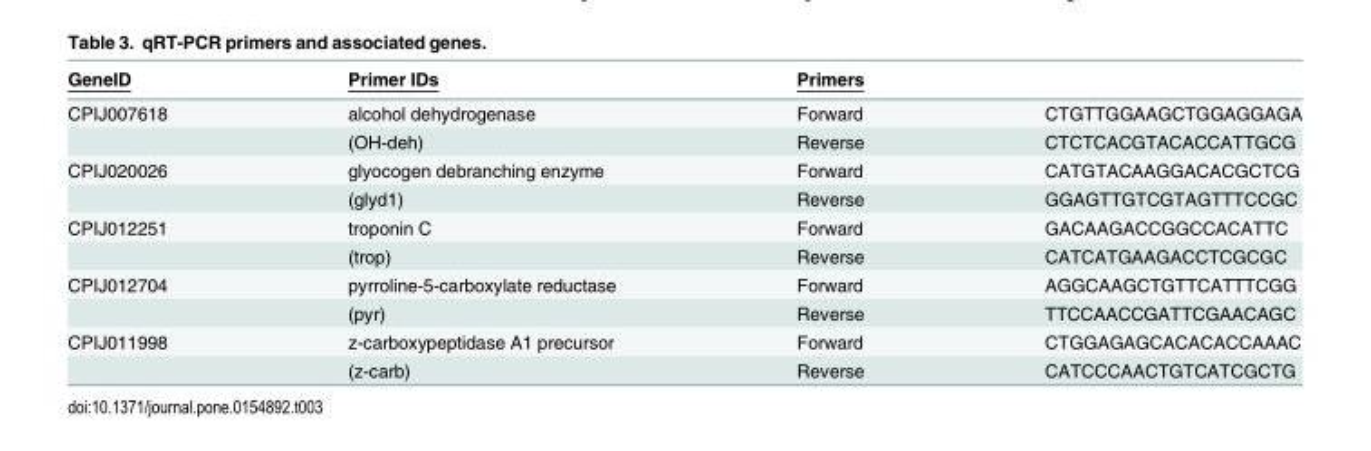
<table><thead><tr><td rowspan="2">GeneID CPIJ007618</td><td rowspan="2">Primer IDs alcohol dehydrogenase</td><td colspan="2">Primers</td></tr><tr><td>Forward</td><td>CTGTTGGAAGCTGGAGGAGA</td></tr></thead><tbody><tr><td></td><td>(OH-deh)</td><td>Reverse</td><td>CTCTCACGTACACCATTGCG</td></tr><tr><td rowspan="2">CPIJ020026</td><td>glyocogen debranching enzyme</td><td>Forward</td><td>CATGTACAAGGACACGCTCG</td></tr><tr><td>(glyd1)</td><td>Reverse</td><td>GGAGTTGTCGTAGTTTCCGC</td></tr><tr><td rowspan="2">CPIJ012251</td><td>troponin C</td><td>Forward</td><td>GACAAGACCGGCCACATTC</td></tr><tr><td>(trop)</td><td>Reverse</td><td>CATCATGAAGACCTCGCGC</td></tr><tr><td rowspan="2">CPIJ012704</td><td>pyrroline-5-carboxylate reductase</td><td>Forward</td><td>AGGCAAGCTGTTCATTTCGG</td></tr><tr><td>(pyr)</td><td>Reverse</td><td>TTCCAACCGATTCGAACAGC</td></tr><tr><td rowspan="2">CPIJ011998</td><td>z-carboxypeptidase A1 precursor</td><td>Forward</td><td>CTGGAGAGCACACACCAAAC</td></tr><tr><td>(z-carb)</td><td>Reverse</td><td>CATCCCAACTGTCATCGCTG</td></tr></tbody></table>